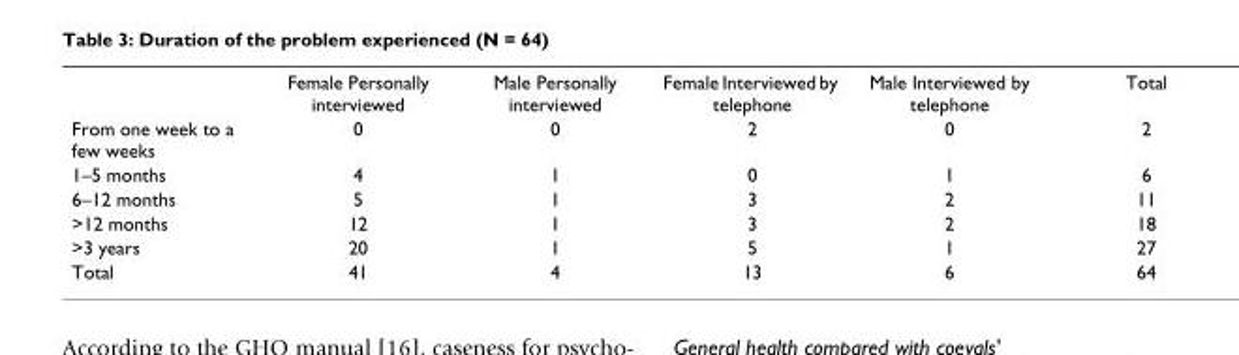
<table><thead><tr><td></td><td>Female Personally interviewed</td><td>Male Personally interviewed</td><td>Female Interviewed by telephone</td><td>Male Interviewed by telephone</td><td>Total</td></tr></thead><tbody><tr><td>From one week to a few weeks</td><td>0</td><td>0</td><td>2</td><td>0</td><td>2</td></tr><tr><td>1–5 months</td><td>4</td><td>1</td><td>0</td><td>1</td><td>6</td></tr><tr><td>6–12 months</td><td>5</td><td>1</td><td>3</td><td>2</td><td>11</td></tr><tr><td>&gt;12 months</td><td>12</td><td>1</td><td>3</td><td>2</td><td>18</td></tr><tr><td>&gt;3 years</td><td>20</td><td>1</td><td>5</td><td>1</td><td>27</td></tr><tr><td>Total</td><td>41</td><td>4</td><td>13</td><td>6</td><td>64</td></tr></tbody></table>